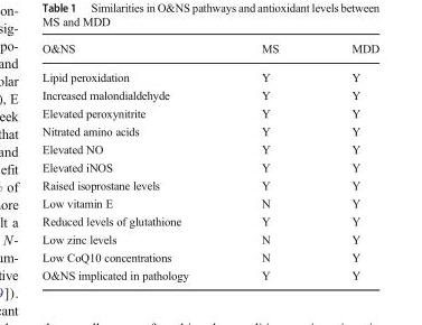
<table><thead><tr><td>O&amp;NS</td><td>MS</td><td>MDD</td></tr></thead><tbody><tr><td>Lipid peroxidation</td><td>Y</td><td>Y</td></tr><tr><td>Increased malondialdehyde</td><td>Y</td><td>Y</td></tr><tr><td>Elevated peroxynitrite</td><td>Y</td><td>Y</td></tr><tr><td>Nitrated amino acids</td><td>Y</td><td>Y</td></tr><tr><td>Elevated NO</td><td>Y</td><td>Y</td></tr><tr><td>Elevated iNOS</td><td>Y</td><td>Y</td></tr><tr><td>Raised isoprostane levels</td><td>Y</td><td>Y</td></tr><tr><td>Low vitamin E</td><td>N</td><td>Y</td></tr><tr><td>Reduced levels of glutathione</td><td>Y</td><td>Y</td></tr><tr><td>Low zinc levels</td><td>N</td><td>Y</td></tr><tr><td>Low CoQ10 concentrations</td><td>N</td><td>Y</td></tr><tr><td>O&amp;NS implicated in pathology</td><td>Y</td><td>Y</td></tr></tbody></table>